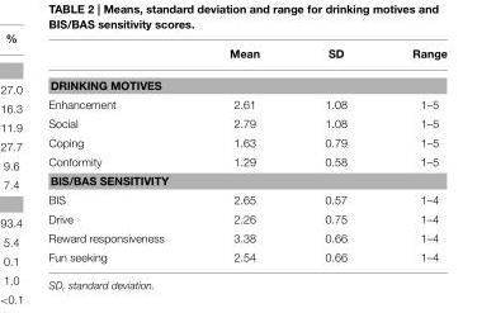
<table><thead><tr><td></td><td>Mean</td><td>SD</td><td>Range</td></tr></thead><tbody><tr><td colspan="4">DRINKING MOTIVES</td></tr><tr><td>Enhancement</td><td>2.61</td><td>1.08</td><td>1–5</td></tr><tr><td>Social</td><td>2.79</td><td>1.08</td><td>1–5</td></tr><tr><td>Coping</td><td>1.63</td><td>0.79</td><td>1–5</td></tr><tr><td>Conformity</td><td>1.29</td><td>0.58</td><td>1–5</td></tr><tr><td colspan="4">BIS/BAS SENSITIVITY</td></tr><tr><td>BIS</td><td>2.65</td><td>0.57</td><td>1–4</td></tr><tr><td>Drive</td><td>2.26</td><td>0.75</td><td>1–4</td></tr><tr><td>Reward responsiveness</td><td>3.38</td><td>0.66</td><td>1–4</td></tr><tr><td>Fun seeking</td><td>2.54</td><td>0.66</td><td>1–4</td></tr></tbody></table>